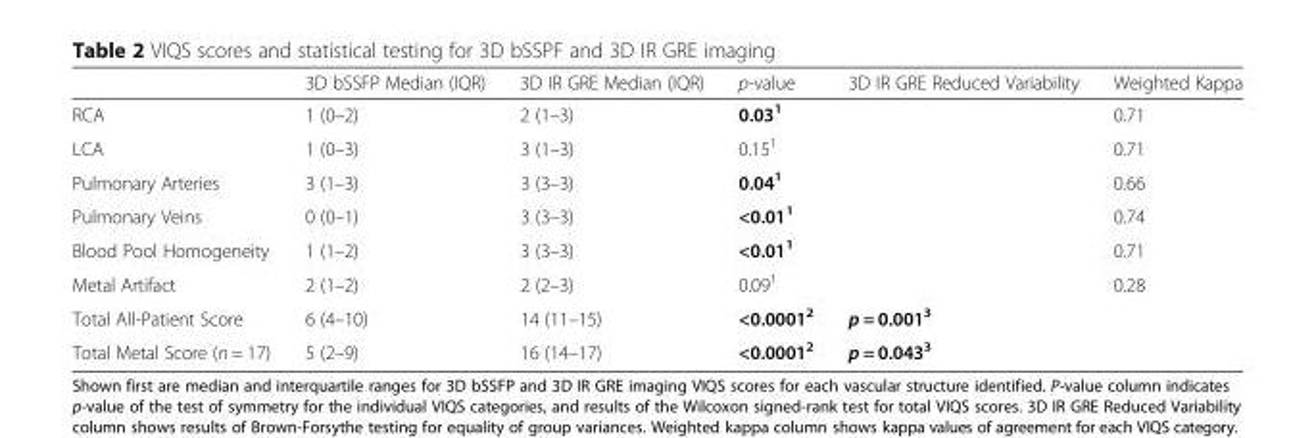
<table><thead><tr><td></td><td>3D bSSFP Median (IQR)</td><td>3D IR GRE Median (IQR)</td><td>p-value</td><td>3D IR GRE Reduced Variability</td><td>Weighted Kappa</td></tr></thead><tbody><tr><td>RCA</td><td>1 (0–2)</td><td>2 (1–3)</td><td>0.03<sup>1</sup></td><td></td><td>0.71</td></tr><tr><td>LCA</td><td>1 (0–3)</td><td>3 (1–3)</td><td>0.15<sup>1</sup></td><td></td><td>0.71</td></tr><tr><td>Pulmonary Arteries</td><td>3 (1–3)</td><td>3 (3–3)</td><td>0.04<sup>1</sup></td><td></td><td>0.66</td></tr><tr><td>Pulmonary Veins</td><td>0 (0–1)</td><td>3 (3–3)</td><td>&lt;0.01<sup>1</sup></td><td></td><td>0.74</td></tr><tr><td>Blood Pool Homogeneity</td><td>1 (1–2)</td><td>3 (3–3)</td><td>&lt;0.01<sup>1</sup></td><td></td><td>0.71</td></tr><tr><td>Metal Artifact</td><td>2 (1–2)</td><td>2 (2–3)</td><td>0.09<sup>1</sup></td><td></td><td>0.28</td></tr><tr><td>Total All-Patient Score</td><td>6 (4–10)</td><td>14 (11–15)</td><td>&lt;0.0001<sup>2</sup></td><td>p = 0.001<sup>3</sup></td><td></td></tr><tr><td>Total Metal Score (n = 17)</td><td>5 (2–9)</td><td>16 (14–17)</td><td>&lt;0.0001<sup>2</sup></td><td>p = 0.043<sup>3</sup></td><td></td></tr></tbody></table>